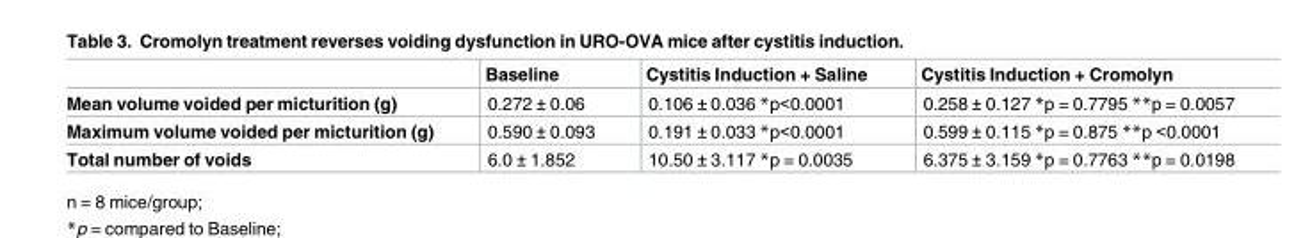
<table><thead><tr><td></td><td>Baseline</td><td>Cystitis Induction + Saline</td><td>Cystitis Induction + Cromolyn</td></tr></thead><tbody><tr><td>Mean volume voided per micturition (g)</td><td>0.272 ± 0.06</td><td>0.106 ± 0.036 *p&lt;0.0001</td><td>0.258 ± 0.127 *p = 0.7795 **p = 0.0057</td></tr><tr><td>Maximum volume voided per micturition (g)</td><td>0.590 ± 0.093</td><td>0.191 ± 0.033 *p&lt;0.0001</td><td>0.599 ± 0.115 *p = 0.875 **p &lt;0.0001</td></tr><tr><td>Total number of voids</td><td>6.0 ± 1.852</td><td>10.50 ± 3.117 *p = 0.0035</td><td>6.375 ± 3.159 *p = 0.7763 **p = 0.0198</td></tr></tbody></table>